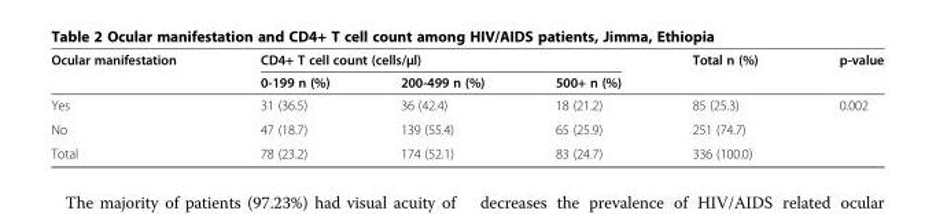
<table><thead><tr><td rowspan="2">Ocular manifestation</td><td colspan="3">CD4+ T cell count (cells/μl)</td><td rowspan="2">Total n (%)</td><td rowspan="2">p-value</td></tr><tr><td>0-199 n (%)</td><td>200-499 n (%)</td><td>500+ n (%)</td></tr></thead><tbody><tr><td>Yes</td><td>31 (36.5)</td><td>36 (42.4)</td><td>18 (21.2)</td><td>85 (25.3)</td><td>0.002</td></tr><tr><td>No</td><td>47 (18.7)</td><td>139 (55.4)</td><td>65 (25.9)</td><td>251 (74.7)</td><td></td></tr><tr><td>Total</td><td>78 (23.2)</td><td>174 (52.1)</td><td>83 (24.7)</td><td>336 (100.0)</td><td></td></tr></tbody></table>